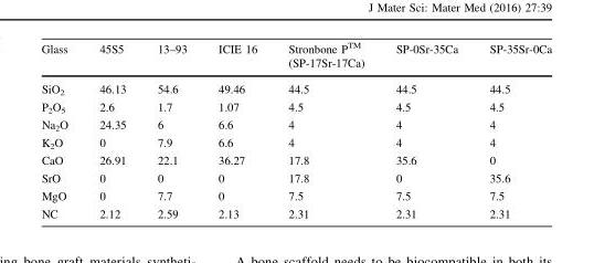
<table><thead><tr><td>Glass</td><td>45S5</td><td>13–93</td><td>ICIE 16</td><td>Stronbone PTM (SP-17Sr-17Ca)</td><td>SP-0Sr-35Ca</td><td>SP-35Sr-0Ca</td></tr></thead><tbody><tr><td>SiO<sub>2</sub></td><td>46.13</td><td>54.6</td><td>49.46</td><td>44.5</td><td>44.5</td><td>44.5</td></tr><tr><td>P<sub>2</sub>O<sub>5</sub></td><td>2.6</td><td>1.7</td><td>1.07</td><td>4.5</td><td>4.5</td><td>4.5</td></tr><tr><td>Na<sub>2</sub>O</td><td>24.35</td><td>6</td><td>6.6</td><td>4</td><td>4</td><td>4</td></tr><tr><td>K<sub>2</sub>O</td><td>0</td><td>7.9</td><td>6.6</td><td>4</td><td>4</td><td>4</td></tr><tr><td>CaO</td><td>26.91</td><td>22.1</td><td>36.27</td><td>17.8</td><td>35.6</td><td>0</td></tr><tr><td>SrO</td><td>0</td><td>0</td><td>0</td><td>17.8</td><td>0</td><td>35.6</td></tr><tr><td>MgO</td><td>0</td><td>7.7</td><td>0</td><td>7.5</td><td>7.5</td><td>7.5</td></tr><tr><td>NC</td><td>2.12</td><td>2.59</td><td>2.13</td><td>2.31</td><td>2.31</td><td>2.31</td></tr></tbody></table>